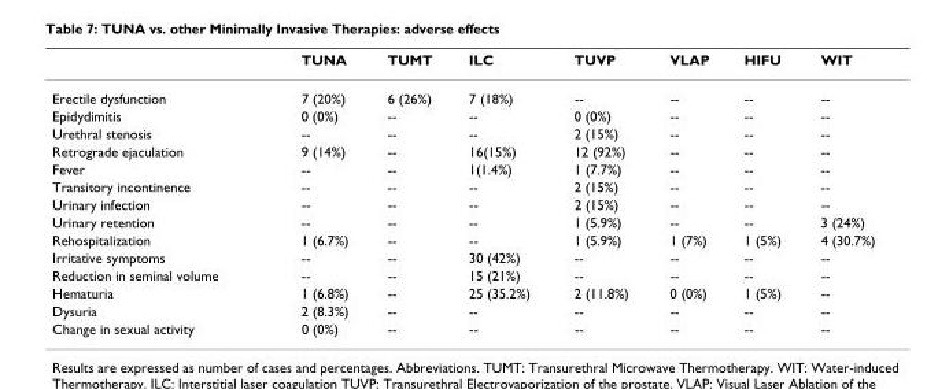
<table><thead><tr><td></td><td>TUNA</td><td>TUMT</td><td>ILC</td><td>TUVP</td><td>VLAP</td><td>HIFU</td><td>WIT</td></tr></thead><tbody><tr><td>Erectile dysfunction</td><td>7 (20%)</td><td>6 (26%)</td><td>7 (18%)</td><td>--</td><td>--</td><td>--</td><td>--</td></tr><tr><td>Epidydimitis</td><td>0 (0%)</td><td>--</td><td>--</td><td>0 (0%)</td><td>--</td><td>--</td><td>--</td></tr><tr><td>Urethral stenosis</td><td>--</td><td>--</td><td>--</td><td>2 (15%)</td><td>--</td><td>--</td><td>--</td></tr><tr><td>Retrograde ejaculation</td><td>9 (14%)</td><td>--</td><td>16(15%)</td><td>12 (92%)</td><td>--</td><td>--</td><td>--</td></tr><tr><td>Fever</td><td>--</td><td>--</td><td>1(1.4%)</td><td>1 (7.7%)</td><td>--</td><td>--</td><td>--</td></tr><tr><td>Transitory incontinence</td><td>--</td><td>--</td><td>--</td><td>2 (15%)</td><td>--</td><td>--</td><td>--</td></tr><tr><td>Urinary infection</td><td>--</td><td>--</td><td>--</td><td>2 (15%)</td><td>--</td><td>--</td><td>--</td></tr><tr><td>Urinary retention</td><td>--</td><td>--</td><td>--</td><td>1 (5.9%)</td><td>--</td><td>--</td><td>3 (24%)</td></tr><tr><td>Rehospitalization</td><td>1 (6.7%)</td><td>--</td><td>--</td><td>1 (5.9%)</td><td>1 (7%)</td><td>1 (5%)</td><td>4 (30.7%)</td></tr><tr><td>Irritative symptoms</td><td>--</td><td>--</td><td>30 (42%)</td><td>--</td><td>--</td><td>--</td><td>--</td></tr><tr><td>Reduction in seminal volume</td><td>--</td><td>--</td><td>15 (21%)</td><td>--</td><td>--</td><td>--</td><td>--</td></tr><tr><td>Hematuria</td><td>1 (6.8%)</td><td>--</td><td>25 (35.2%)</td><td>2 (11.8%)</td><td>0 (0%)</td><td>1 (5%)</td><td>--</td></tr><tr><td>Dysuria</td><td>2 (8.3%)</td><td>--</td><td>--</td><td>--</td><td>--</td><td>--</td><td>--</td></tr><tr><td>Change in sexual activity</td><td>0 (0%)</td><td>--</td><td>--</td><td>--</td><td>--</td><td>--</td><td>--</td></tr></tbody></table>